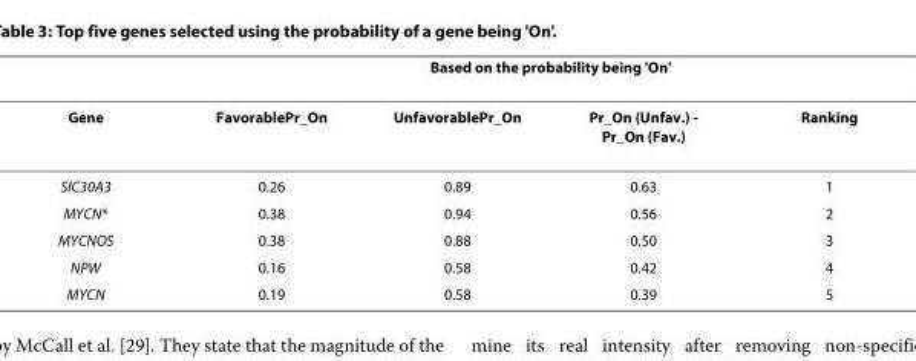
<table><thead><tr><td rowspan="2">Gene</td><td colspan="4">Based on the probability being &#x27;On&#x27;</td></tr><tr><td>FavorablePr_On</td><td>UnfavorablePr_On</td><td>Pr_On (Unfav.) - Pr_On (Fav.)</td><td>Ranking</td></tr></thead><tbody><tr><td>SlC30A3</td><td>0.26</td><td>0.89</td><td>0.63</td><td>1</td></tr><tr><td>MYCN*</td><td>0.38</td><td>0.94</td><td>0.56</td><td>2</td></tr><tr><td>MYCNOS</td><td>0.38</td><td>0.88</td><td>0.50</td><td>3</td></tr><tr><td>NPW</td><td>0.16</td><td>0.58</td><td>0.42</td><td>4</td></tr><tr><td>MYCN</td><td>0.19</td><td>0.58</td><td>0.39</td><td>5</td></tr></tbody></table>